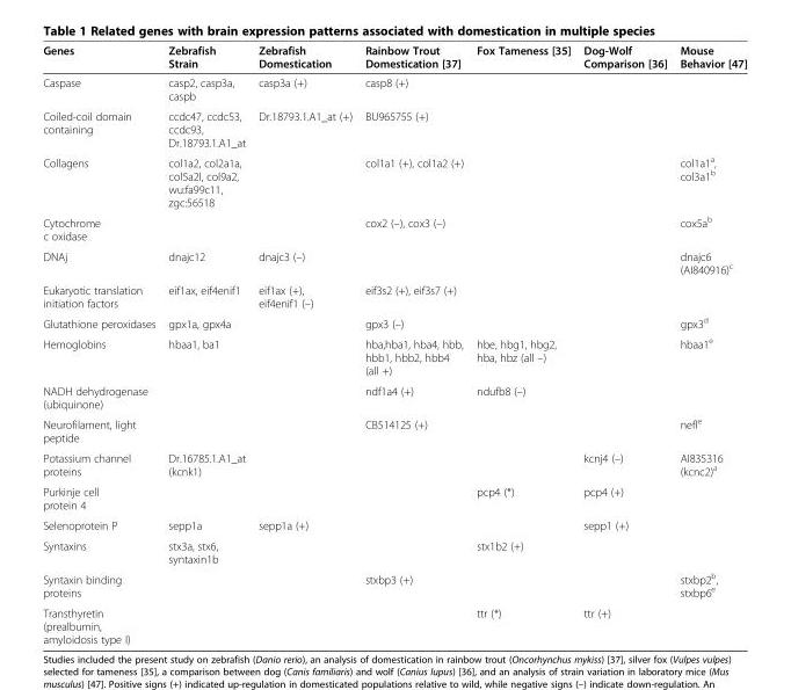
<table><thead><tr><td>Genes</td><td>Zebrafish Strain</td><td>Zebrafish Domestication</td><td>Rainbow Trout Domestication [37]</td><td>Fox Tameness [35]</td><td>Dog-Wolf Comparison [36]</td><td>Mouse Behavior [47]</td></tr></thead><tbody><tr><td>Caspase</td><td>casp2, casp3a, caspb</td><td>casp3a (+)</td><td>casp8 (+)</td><td></td><td></td><td></td></tr><tr><td>Coiled-coil domain containing</td><td>ccdc47, ccdc53, ccdc93, Dr.18793.1.A1_at</td><td>Dr.18793.1.A1_at (+)</td><td>BU965755 (+)</td><td></td><td></td><td></td></tr><tr><td>Collagens</td><td>col1a2, col2a1a, col5a2l, col9a2, wu:fa99c11, zgc:56518</td><td></td><td>col1a1 (+), col1a2 (+)</td><td></td><td></td><td>col1a1<sup>a</sup>, col3a1<sup>b</sup></td></tr><tr><td>Cytochrome c oxidase</td><td></td><td></td><td>cox2 (–), cox3 (–)</td><td></td><td></td><td>cox5a<sup>b</sup></td></tr><tr><td>DNAj</td><td>dnajc12</td><td>dnajc3 (–)</td><td></td><td></td><td></td><td>dnajc6 (AI840916)<sup>c</sup></td></tr><tr><td>Eukaryotic translation initiation factors</td><td>eif1ax, eif4enif1</td><td>eif1ax (+), eif4enif1 (–)</td><td>eif3s2 (+), eif3s7 (+)</td><td></td><td></td><td></td></tr><tr><td>Glutathione peroxidases</td><td>gpx1a, gpx4a</td><td></td><td>gpx3 (–)</td><td></td><td></td><td>gpx3<sup>d</sup></td></tr><tr><td>Hemoglobins</td><td>hbaa1, ba1</td><td></td><td>hba,hba1, hba4, hbb, hbb1, hbb2, hbb4 (all +)</td><td>hbe, hbg1, hbg2, hba, hbz (all –)</td><td></td><td>hbaa1<sup>e</sup></td></tr><tr><td>NADH dehydrogenase (ubiquinone)</td><td></td><td></td><td>ndf1a4 (+)</td><td>ndufb8 (–)</td><td></td><td></td></tr><tr><td>Neurofilament, light peptide</td><td></td><td></td><td>CB514125 (+)</td><td></td><td></td><td>nefl<sup>e</sup></td></tr><tr><td>Potassium channel proteins</td><td>Dr.16785.1.A1_at (kcnk1)</td><td></td><td></td><td></td><td>kcnj4 (–)</td><td>AI835316 (kcnc2)<sup>a</sup></td></tr><tr><td>Purkinje cell protein 4</td><td></td><td></td><td></td><td>pcp4 (*)</td><td>pcp4 (+)</td><td></td></tr><tr><td>Selenoprotein P</td><td>sepp1a</td><td>sepp1a (+)</td><td></td><td></td><td>sepp1 (+)</td><td></td></tr><tr><td>Syntaxins</td><td>stx3a, stx6, syntaxin1b</td><td></td><td></td><td>stx1b2 (+)</td><td></td><td></td></tr><tr><td>Syntaxin binding proteins</td><td></td><td></td><td>stxbp3 (+)</td><td></td><td></td><td>stxbp2<sup>b</sup>, stxbp6<sup>e</sup></td></tr><tr><td>Transthyretin (prealbumin, amyloidosis type I)</td><td></td><td></td><td></td><td>ttr (*)</td><td>ttr (+)</td><td></td></tr></tbody></table>